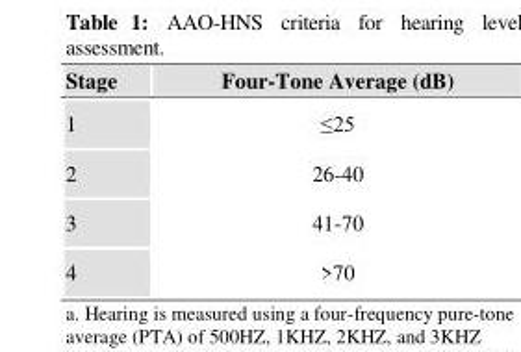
<table><thead><tr><td>Stage</td><td>Four-Tone Average (dB)</td></tr></thead><tbody><tr><td>1</td><td>≤25</td></tr><tr><td>2</td><td>26-40</td></tr><tr><td>3</td><td>41-70</td></tr><tr><td>4</td><td>&gt;70</td></tr></tbody></table>